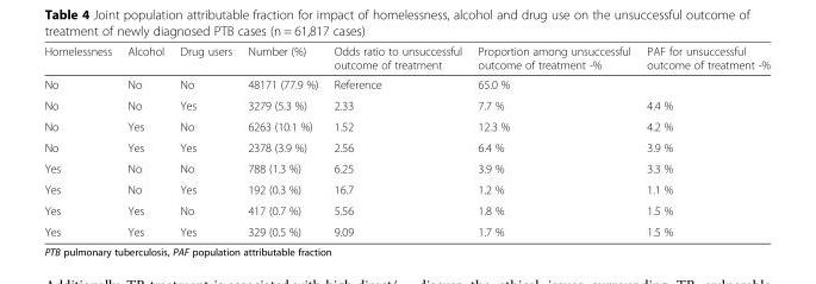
<table><thead><tr><td>Homelessness</td><td>Alcohol</td><td>Drug users</td><td>Number (%)</td><td>Odds ratio to unsuccessful outcome of treatment</td><td>Proportion among unsuccessful outcome of treatment -%</td><td>PAF for unsuccessful outcome of treatment -%</td></tr></thead><tbody><tr><td>No</td><td>No</td><td>No</td><td>48171 (77.9 %)</td><td>Reference</td><td>65.0 %</td><td></td></tr><tr><td>No</td><td>No</td><td>Yes</td><td>3279 (5.3 %)</td><td>2.33</td><td>7.7 %</td><td>4.4 %</td></tr><tr><td>No</td><td>Yes</td><td>No</td><td>6263 (10.1 %)</td><td>1.52</td><td>12.3 %</td><td>4.2 %</td></tr><tr><td>No</td><td>Yes</td><td>Yes</td><td>2378 (3.9 %)</td><td>2.56</td><td>6.4 %</td><td>3.9 %</td></tr><tr><td>Yes</td><td>No</td><td>No</td><td>788 (1.3 %)</td><td>6.25</td><td>3.9 %</td><td>3.3 %</td></tr><tr><td>Yes</td><td>No</td><td>Yes</td><td>192 (0.3 %)</td><td>16.7</td><td>1.2 %</td><td>1.1 %</td></tr><tr><td>Yes</td><td>Yes</td><td>No</td><td>417 (0.7 %)</td><td>5.56</td><td>1.8 %</td><td>1.5 %</td></tr><tr><td>Yes</td><td>Yes</td><td>Yes</td><td>329 (0.5 %)</td><td>9.09</td><td>1.7 %</td><td>1.5 %</td></tr></tbody></table>